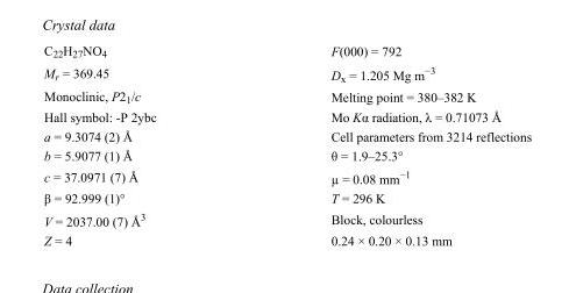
<table><tbody><tr><td>C<sub>22</sub>H<sub>27</sub>NO<sub>4</sub></td><td>F(000) = 792</td></tr><tr><td>M<sub>r</sub> = 369.45</td><td>D<sub>x</sub> = 1.205 Mg m<sup>−3</sup></td></tr><tr><td>Monoclinic, P2<sub>1</sub>/c</td><td>Melting point = 380–382 K</td></tr><tr><td>Hall symbol: -P 2ybc</td><td>Mo Kα radiation, λ = 0.71073 Å</td></tr><tr><td>a = 9.3074 (2) Å</td><td>Cell parameters from 3214 reflections</td></tr><tr><td>b = 5.9077 (1) Å</td><td>θ = 1.9–25.3°</td></tr><tr><td>c = 37.0971 (7) Å</td><td>µ = 0.08 mm<sup>−1</sup></td></tr><tr><td>β = 92.999 (1)°</td><td>T = 296 K</td></tr><tr><td>V = 2037.00 (7) Å<sup>3</sup></td><td>Block, colourless</td></tr><tr><td>Z = 4</td><td>0.24 × 0.20 × 0.13 mm</td></tr></tbody></table>